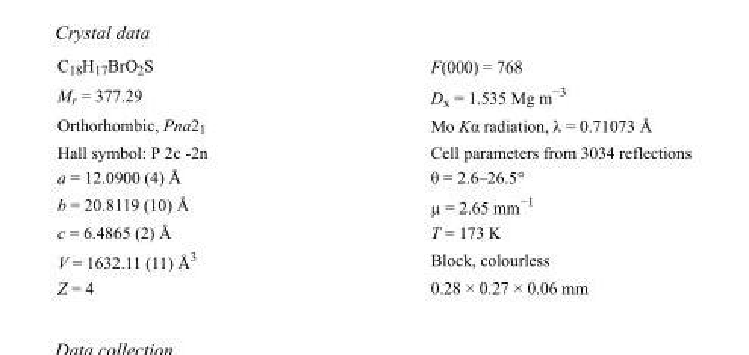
<table><tbody><tr><td>C<sub>18</sub>H<sub>17</sub>BrO<sub>2</sub>S</td><td>F(000) = 768</td></tr><tr><td>M<sub>r</sub> = 377.29</td><td>D<sub>x</sub> = 1.535 Mg m<sup>−3</sup></td></tr><tr><td>Orthorhombic, Pna2<sub>1</sub></td><td>Mo Kα radiation, λ = 0.71073 Å</td></tr><tr><td>Hall symbol: P 2c -2n</td><td>Cell parameters from 3034 reflections</td></tr><tr><td>a = 12.0900 (4) Å</td><td>θ = 2.6–26.5°</td></tr><tr><td>b = 20.8119 (10) Å</td><td>µ = 2.65 mm<sup>−1</sup></td></tr><tr><td>c = 6.4865 (2) Å</td><td>T = 173 K</td></tr><tr><td>V = 1632.11 (11) Å<sup>3</sup></td><td>Block, colourless</td></tr><tr><td>Z = 4</td><td>0.28 × 0.27 × 0.06 mm</td></tr></tbody></table>